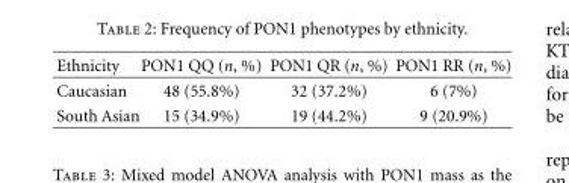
<table><thead><tr><td>Ethnicity</td><td>PON1 QQ (n, %)</td><td>PON1 QR (n, %)</td><td>PON1 RR (n, %)</td></tr></thead><tbody><tr><td>Caucasian</td><td>48 (55.8%)</td><td>32 (37.2%)</td><td>6 (7%)</td></tr><tr><td>South Asian</td><td>15 (34.9%)</td><td>19 (44.2%)</td><td>9 (20.9%)</td></tr></tbody></table>